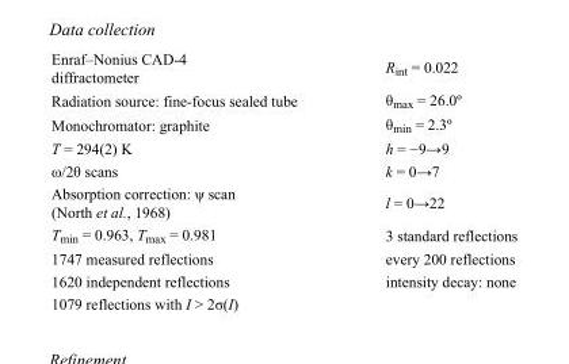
<table><tbody><tr><td>Enraf–Nonius CAD-4 diffractometer</td><td>R<sub>int</sub> = 0.022</td></tr><tr><td>Radiation source: fine-focus sealed tube</td><td>θ<sub>max</sub> = 26.0º</td></tr><tr><td>Monochromator: graphite</td><td>θ<sub>min</sub> = 2.3º</td></tr><tr><td>T = 294(2) K</td><td>h = −9→9</td></tr><tr><td>ω/2θ scans</td><td>k = 0→7</td></tr><tr><td>Absorption correction: ψ scan (North et al., 1968)</td><td>l = 0→22</td></tr><tr><td>T<sub>min</sub> = 0.963, T<sub>max</sub> = 0.981</td><td>3 standard reflections</td></tr><tr><td>1747 measured reflections</td><td>every 200 reflections</td></tr><tr><td>1620 independent reflections</td><td>intensity decay: none</td></tr><tr><td>1079 reflections with I &gt; 2σ(I)</td><td></td></tr></tbody></table>